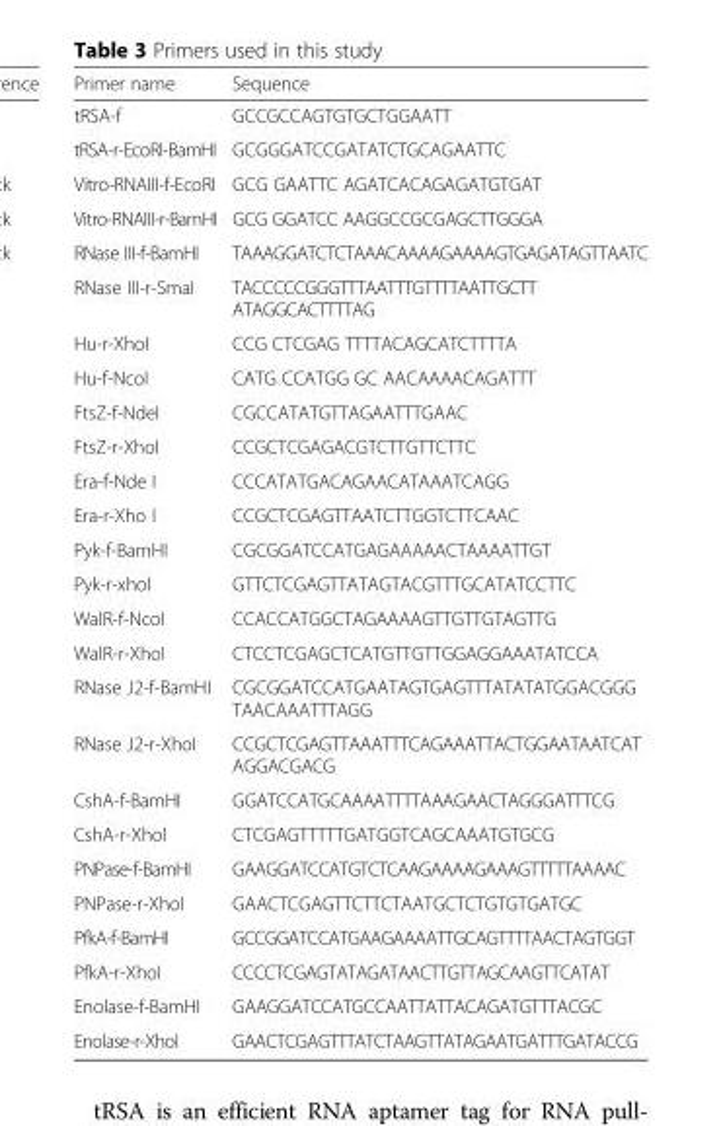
<table><thead><tr><td>Primer name</td><td>Sequence</td></tr></thead><tbody><tr><td>tRSA-f</td><td>GCCGCCAGTGTGCTGGAATT</td></tr><tr><td>tRSA-r-EcoRI-BamHI</td><td>GCGGGATCCGATATCTGCAGAATTC</td></tr><tr><td>Vitro-RNAIII-f-EcoRI</td><td>GCG GAATTC AGATCACAGAGATGTGAT</td></tr><tr><td>Vitro-RNAIII-r-BamHI</td><td>GCG GGATCC AAGGCCGCGAGCTTGGGA</td></tr><tr><td>RNase III-f-BamHI</td><td>TAAAGGATCTCTAAACAAAAGAAAAGTGAGATAGTTAATC</td></tr><tr><td>RNase III-r-SmaI</td><td>TACCCCCGGGTTTAATTTGTTTTAATTGCTT ATAGGCACTTTTAG</td></tr><tr><td>Hu-r-XhoI</td><td>CCG CTCGAG TTTTACAGCATCTTTTA</td></tr><tr><td>Hu-f-NcoI</td><td>CATG CCATGG GC AACAAAACAGATTT</td></tr><tr><td>FtsZ-f-NdeI</td><td>CGCCATATGTTAGAATTTGAAC</td></tr><tr><td>FtsZ-r-XhoI</td><td>CCGCTCGAGACGTCTTGTTCTTC</td></tr><tr><td>Era-f-Nde I</td><td>CCCATATGACAGAACATAAATCAGG</td></tr><tr><td>Era-r-Xho I</td><td>CCGCTCGAGTTAATCTTGGTCTTCAAC</td></tr><tr><td>Pyk-f-BamHI</td><td>CGCGGATCCATGAGAAAAACTAAAATTGT</td></tr><tr><td>Pyk-r-xhoI</td><td>GTTCTCGAGTTATAGTACGTTTGCATATCCTTC</td></tr><tr><td>WalR-f-NcoI</td><td>CCACCATGGCTAGAAAAGTTGTTGTAGTTG</td></tr><tr><td>WalR-r-XhoI</td><td>CTCCTCGAGCTCATGTTGTTGGAGGAAATATCCA</td></tr><tr><td>RNase J2-f-BamHI</td><td>CGCGGATCCATGAATAGTGAGTTTATATATGGACGGG TAACAAATTTAGG</td></tr><tr><td>RNase J2-r-XhoI</td><td>CCGCTCGAGTTAAATTTCAGAAATTACTGGAATAATCAT AGGACGACG</td></tr><tr><td>CshA-f-BamHI</td><td>GGATCCATGCAAAATTTTAAAGAACTAGGGATTTCG</td></tr><tr><td>CshA-r-XhoI</td><td>CTCGAGTTTTTGATGGTCAGCAAATGTGCG</td></tr><tr><td>PNPase-f-BamHI</td><td>GAAGGATCCATGTCTCAAGAAAAGAAAGTTTTTAAAAC</td></tr><tr><td>PNPase-r-XhoI</td><td>GAACTCGAGTTCTTCTAATGCTCTGTGTGATGC</td></tr><tr><td>PfkA-f-BamHI</td><td>GCCGGATCCATGAAGAAAATTGCAGTTTTAACTAGTGGT</td></tr><tr><td>PfkA-r-XhoI</td><td>CCCCTCGAGTATAGATAACTTGTTAGCAAGTTCATAT</td></tr><tr><td>Enolase-f-BamHI</td><td>GAAGGATCCATGCCAATTATTACAGATGTTTACGC</td></tr><tr><td>Enolase-r-XhoI</td><td>GAACTCGAGTTTATCTAAGTTATAGAATGATTTGATACCG</td></tr></tbody></table>